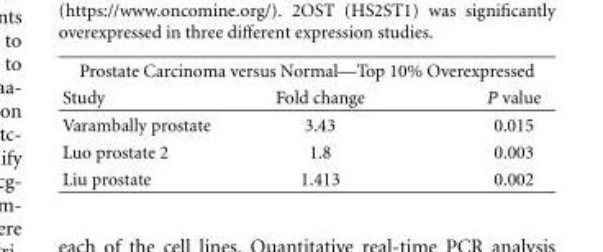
<table><thead><tr><td colspan="3">Prostate Carcinoma versus Normal—Top 10% Overexpressed</td></tr><tr><td>Study</td><td>Fold change</td><td>P value</td></tr></thead><tbody><tr><td>Varambally prostate</td><td>3.43</td><td>0.015</td></tr><tr><td>Luo prostate 2</td><td>1.8</td><td>0.003</td></tr><tr><td>Liu prostate</td><td>1.413</td><td>0.002</td></tr></tbody></table>